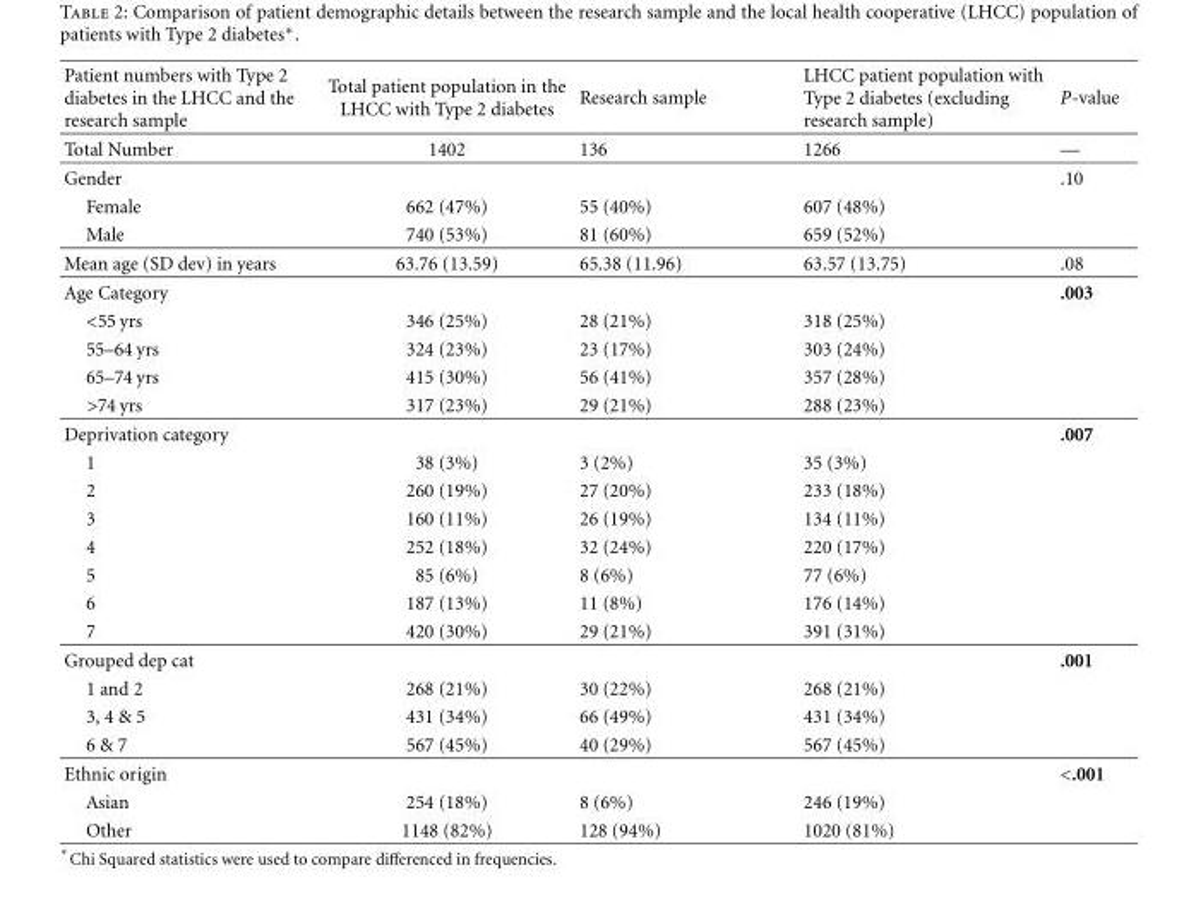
<table><thead><tr><td>Patient numbers with Type 2 diabetes in the LHCC and the research sample</td><td>Total patient population in the LHCC with Type 2 diabetes</td><td>Research sample</td><td>LHCC patient population with Type 2 diabetes (excluding research sample)</td><td>P-value</td></tr></thead><tbody><tr><td>Total Number</td><td>1402</td><td>136</td><td>1266</td><td>—</td></tr><tr><td>Gender</td><td></td><td></td><td></td><td>.10</td></tr><tr><td>Female</td><td>662 (47%)</td><td>55 (40%)</td><td>607 (48%)</td><td></td></tr><tr><td>Male</td><td>740 (53%)</td><td>81 (60%)</td><td>659 (52%)</td><td></td></tr><tr><td>Mean age (SD dev) in years</td><td>63.76 (13.59)</td><td>65.38 (11.96)</td><td>63.57 (13.75)</td><td>.08</td></tr><tr><td>Age Category</td><td></td><td></td><td></td><td>.003</td></tr><tr><td>&lt;55 yrs</td><td>346 (25%)</td><td>28 (21%)</td><td>318 (25%)</td><td></td></tr><tr><td>55–64 yrs</td><td>324 (23%)</td><td>23 (17%)</td><td>303 (24%)</td><td></td></tr><tr><td>65–74 yrs</td><td>415 (30%)</td><td>56 (41%)</td><td>357 (28%)</td><td></td></tr><tr><td>&gt;74 yrs</td><td>317 (23%)</td><td>29 (21%)</td><td>288 (23%)</td><td></td></tr><tr><td>Deprivation category</td><td></td><td></td><td></td><td>.007</td></tr><tr><td>1</td><td>38 (3%)</td><td>3 (2%)</td><td>35 (3%)</td><td></td></tr><tr><td>2</td><td>260 (19%)</td><td>27 (20%)</td><td>233 (18%)</td><td></td></tr><tr><td>3</td><td>160 (11%)</td><td>26 (19%)</td><td>134 (11%)</td><td></td></tr><tr><td>4</td><td>252 (18%)</td><td>32 (24%)</td><td>220 (17%)</td><td></td></tr><tr><td>5</td><td>85 (6%)</td><td>8 (6%)</td><td>77 (6%)</td><td></td></tr><tr><td>6</td><td>187 (13%)</td><td>11 (8%)</td><td>176 (14%)</td><td></td></tr><tr><td>7</td><td>420 (30%)</td><td>29 (21%)</td><td>391 (31%)</td><td></td></tr><tr><td>Grouped dep cat</td><td></td><td></td><td></td><td>.001</td></tr><tr><td>1 and 2</td><td>268 (21%)</td><td>30 (22%)</td><td>268 (21%)</td><td></td></tr><tr><td>3, 4 &amp; 5</td><td>431 (34%)</td><td>66 (49%)</td><td>431 (34%)</td><td></td></tr><tr><td>6 &amp; 7</td><td>567 (45%)</td><td>40 (29%)</td><td>567 (45%)</td><td></td></tr><tr><td>Ethnic origin</td><td></td><td></td><td></td><td>&lt;.001</td></tr><tr><td>Asian</td><td>254 (18%)</td><td>8 (6%)</td><td>246 (19%)</td><td></td></tr><tr><td>Other</td><td>1148 (82%)</td><td>128 (94%)</td><td>1020 (81%)</td><td></td></tr></tbody></table>